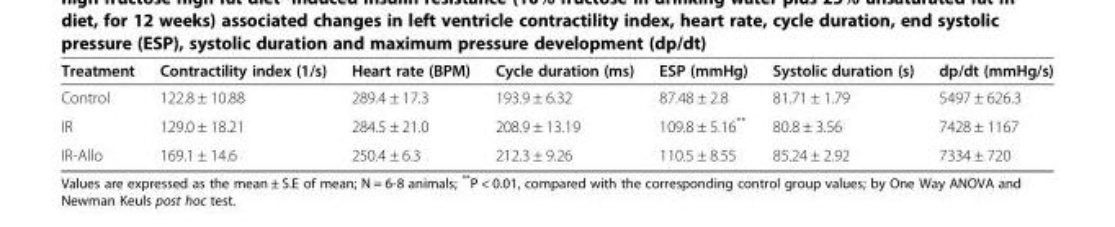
<table><thead><tr><td>Treatment</td><td>Contractility index (1/s)</td><td>Heart rate (BPM)</td><td>Cycle duration (ms)</td><td>ESP (mmHg)</td><td>Systolic duration (s)</td><td>dp/dt (mmHg/s)</td></tr></thead><tbody><tr><td>Control</td><td>122.8 ± 10.88</td><td>289.4 ± 17.3</td><td>193.9 ± 6.32</td><td>87.48 ± 2.8</td><td>81.71 ± 1.79</td><td>5497 ± 626.3</td></tr><tr><td>IR</td><td>129.0 ± 18.21</td><td>284.5 ± 21.0</td><td>208.9 ± 13.19</td><td>109.8 ± 5.16**</td><td>80.8 ± 3.56</td><td>7428 ± 1167</td></tr><tr><td>IR-Allo</td><td>169.1 ± 14.6</td><td>250.4 ± 6.3</td><td>212.3 ± 9.26</td><td>110.5 ± 8.55</td><td>85.24 ± 2.92</td><td>7334 ± 720</td></tr></tbody></table>